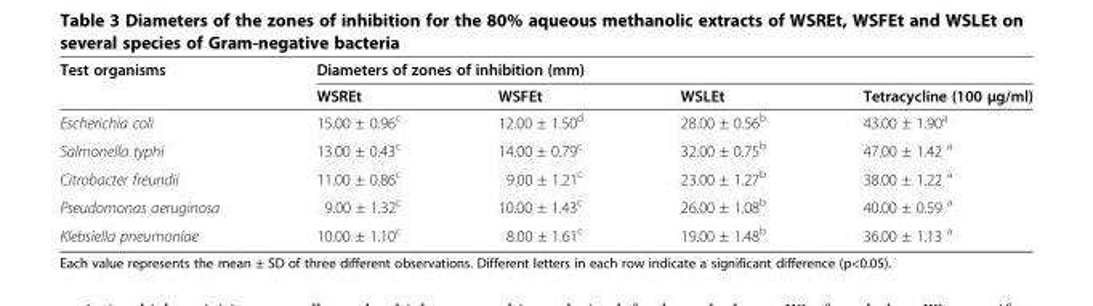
<table><thead><tr><td rowspan="2">Test organisms</td><td colspan="4">Diameters of zones of inhibition (mm)</td></tr><tr><td>WSREt</td><td>WSFEt</td><td>WSLEt</td><td>Tetracycline (100 μg/ml)</td></tr></thead><tbody><tr><td>Escherichia coli</td><td>15.00 ± 0.96<sup>c</sup></td><td>12.00 ± 1.50<sup>d</sup></td><td>28.00 ± 0.56<sup>b</sup></td><td>43.00 ± 1.90<sup>a</sup></td></tr><tr><td>Salmonella typhi</td><td>13.00 ± 0.43<sup>c</sup></td><td>14.00 ± 0.79<sup>c</sup></td><td>32.00 ± 0.75<sup>b</sup></td><td>47.00 ± 1.42 <sup>a</sup></td></tr><tr><td>Citrobacter freundii</td><td>11.00 ± 0.86<sup>c</sup></td><td>9.00 ± 1.21<sup>c</sup></td><td>23.00 ± 1.27<sup>b</sup></td><td>38.00 ± 1.22 <sup>a</sup></td></tr><tr><td>Pseudomonas aeruginosa</td><td>9.00 ± 1.32<sup>c</sup></td><td>10.00 ± 1.43<sup>c</sup></td><td>26.00 ± 1.08<sup>b</sup></td><td>40.00 ± 0.59 <sup>a</sup></td></tr><tr><td>Klebsiella pneumoniae</td><td>10.00 ± 1.10<sup>c</sup></td><td>8.00 ± 1.61<sup>c</sup></td><td>19.00 ± 1.48<sup>b</sup></td><td>36.00 ± 1.13 <sup>a</sup></td></tr></tbody></table>